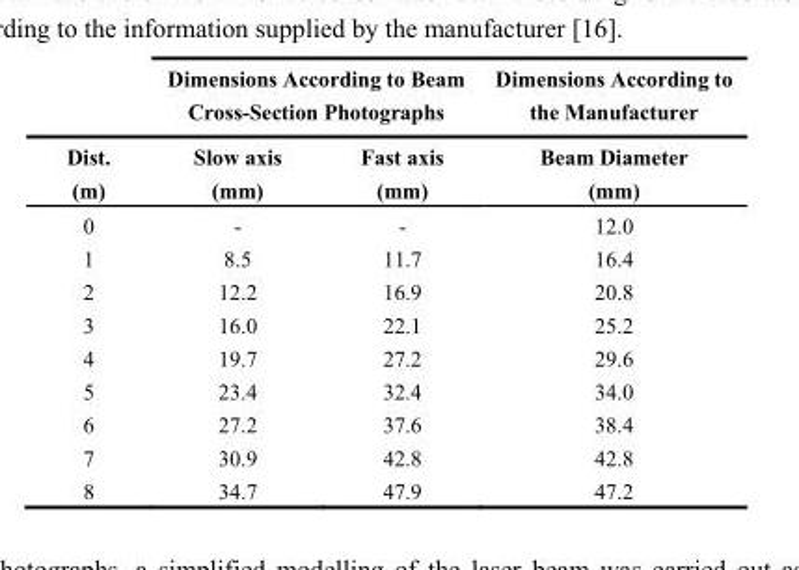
<table><thead><tr><td rowspan="2">Dist. (m)</td><td colspan="2">Dimensions According to Beam Cross-Section Photographs</td><td rowspan="2">Dimensions According to the Manufacturer Beam Diameter (mm)</td></tr><tr><td>Slow axis (mm)</td><td>Fast axis (mm)</td></tr></thead><tbody><tr><td>0</td><td>-</td><td>-</td><td>12.0</td></tr><tr><td>1</td><td>8.5</td><td>11.7</td><td>16.4</td></tr><tr><td>2</td><td>12.2</td><td>16.9</td><td>20.8</td></tr><tr><td>3</td><td>16.0</td><td>22.1</td><td>25.2</td></tr><tr><td>4</td><td>19.7</td><td>27.2</td><td>29.6</td></tr><tr><td>5</td><td>23.4</td><td>32.4</td><td>34.0</td></tr><tr><td>6</td><td>27.2</td><td>37.6</td><td>38.4</td></tr><tr><td>7</td><td>30.9</td><td>42.8</td><td>42.8</td></tr><tr><td>8</td><td>34.7</td><td>47.9</td><td>47.2</td></tr></tbody></table>